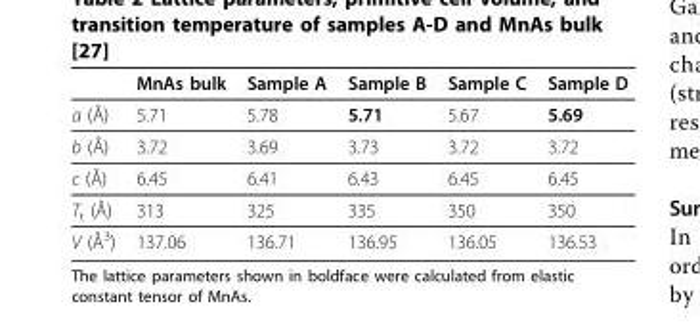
<table><thead><tr><td></td><td>MnAs bulk</td><td>Sample A</td><td>Sample B</td><td>Sample C</td><td>Sample D</td></tr></thead><tbody><tr><td>a (Å)</td><td>5.71</td><td>5.78</td><td>5.71</td><td>5.67</td><td>5.69</td></tr><tr><td>b (Å)</td><td>3.72</td><td>3.69</td><td>3.73</td><td>3.72</td><td>3.72</td></tr><tr><td>c (Å)</td><td>6.45</td><td>6.41</td><td>6.43</td><td>6.45</td><td>6.45</td></tr><tr><td>T<sub>t</sub> (Å)</td><td>313</td><td>325</td><td>335</td><td>350</td><td>350</td></tr><tr><td>V (Å<sup>3</sup>)</td><td>137.06</td><td>136.71</td><td>136.95</td><td>136.05</td><td>136.53</td></tr></tbody></table>